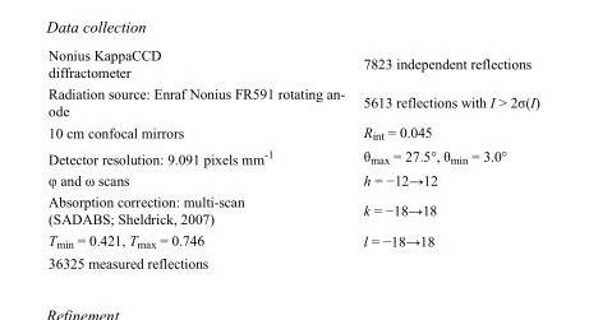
<table><tbody><tr><td>Nonius KappaCCD diffractometer</td><td>7823 independent reflections</td></tr><tr><td>Radiation source: Enraf Nonius FR591 rotating an- ode</td><td>5613 reflections with I &gt; 2σ(I)</td></tr><tr><td>10 cm confocal mirrors</td><td>R<sub>int</sub> = 0.045</td></tr><tr><td>Detector resolution: 9.091 pixels mm<sup>-1</sup></td><td>θ<sub>max</sub> = 27.5°, θ<sub>min</sub> = 3.0°</td></tr><tr><td>φ and ω scans</td><td>h = −12→12</td></tr><tr><td>Absorption correction: multi-scan (SADABS; Sheldrick, 2007)</td><td>k = −18→18</td></tr><tr><td>T<sub>min</sub> = 0.421, T<sub>max</sub> = 0.746</td><td>l = −18→18</td></tr><tr><td>36325 measured reflections</td><td></td></tr></tbody></table>